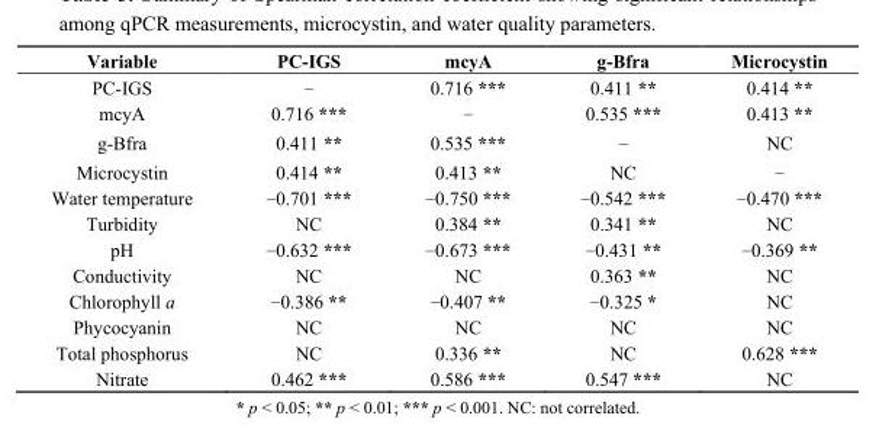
<table><thead><tr><td>Variable</td><td>PC-IGS</td><td>mcyA</td><td>g-Bfra</td><td>Microcystin</td></tr></thead><tbody><tr><td>PC-IGS</td><td>−</td><td>0.716 ***</td><td>0.411 **</td><td>0.414 **</td></tr><tr><td>mcyA</td><td>0.716 ***</td><td>−</td><td>0.535 ***</td><td>0.413 **</td></tr><tr><td>g-Bfra</td><td>0.411 **</td><td>0.535 ***</td><td>−</td><td>NC</td></tr><tr><td>Microcystin</td><td>0.414 **</td><td>0.413 **</td><td>NC</td><td>−</td></tr><tr><td>Water temperature</td><td>−0.701 ***</td><td>−0.750 ***</td><td>−0.542 ***</td><td>−0.470 ***</td></tr><tr><td>Turbidity</td><td>NC</td><td>0.384 **</td><td>0.341 **</td><td>NC</td></tr><tr><td>pH</td><td>−0.632 ***</td><td>−0.673 ***</td><td>−0.431 **</td><td>−0.369 **</td></tr><tr><td>Conductivity</td><td>NC</td><td>NC</td><td>0.363 **</td><td>NC</td></tr><tr><td>Chlorophyll a</td><td>−0.386 **</td><td>−0.407 **</td><td>−0.325 *</td><td>NC</td></tr><tr><td>Phycocyanin</td><td>NC</td><td>NC</td><td>NC</td><td>NC</td></tr><tr><td>Total phosphorus</td><td>NC</td><td>0.336 **</td><td>NC</td><td>0.628 ***</td></tr><tr><td>Nitrate</td><td>0.462 ***</td><td>0.586 ***</td><td>0.547 ***</td><td>NC</td></tr></tbody></table>